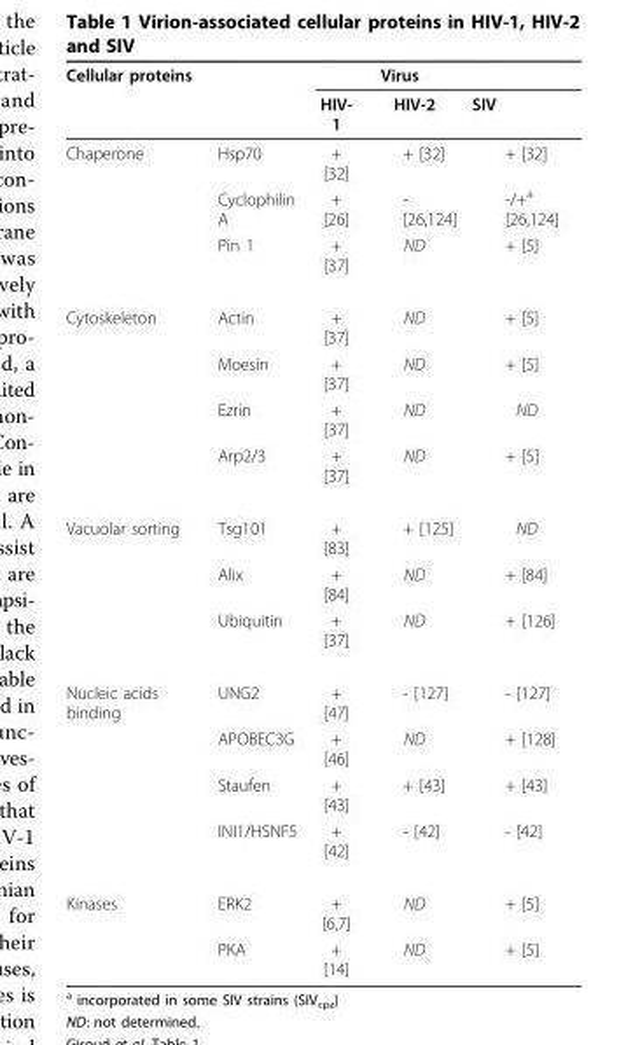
<table><thead><tr><td rowspan="2">Cellular proteins</td><td colspan="4">Virus</td></tr><tr><td></td><td>HIV- 1</td><td>HIV-2</td><td>SIV</td></tr></thead><tbody><tr><td rowspan="3">Chaperone</td><td>Hsp70</td><td>+ [32]</td><td>+ [32]</td><td>+ [32]</td></tr><tr><td>Cyclophilin A</td><td>+ [26]</td><td>- [26,124]</td><td>-/+<sup>a</sup> [26,124]</td></tr><tr><td>Pin 1</td><td>+ [37]</td><td>ND</td><td>+ [5]</td></tr><tr><td rowspan="4">Cytoskeleton</td><td>Actin</td><td>+ [37]</td><td>ND</td><td>+ [5]</td></tr><tr><td>Moesin</td><td>+ [37]</td><td>ND</td><td>+ [5]</td></tr><tr><td>Ezrin</td><td>+ [37]</td><td>ND</td><td>ND</td></tr><tr><td>Arp2/3</td><td>+ [37]</td><td>ND</td><td>+ [5]</td></tr><tr><td rowspan="3">Vacuolar sorting</td><td>Tsg101</td><td>+ [83]</td><td>+ [125]</td><td>ND</td></tr><tr><td>Alix</td><td>+ [84]</td><td>ND</td><td>+ [84]</td></tr><tr><td>Ubiquitin</td><td>+ [37]</td><td>ND</td><td>+ [126]</td></tr><tr><td rowspan="4">Nucleic acids binding</td><td>UNG2</td><td>+ [47]</td><td>- [127]</td><td>- [127]</td></tr><tr><td>APOBEC3G</td><td>+ [46]</td><td>ND</td><td>+ [128]</td></tr><tr><td>Staufen</td><td>+ [43]</td><td>+ [43]</td><td>+ [43]</td></tr><tr><td>INI1/HSNF5</td><td>+ [42]</td><td>- [42]</td><td>- [42]</td></tr><tr><td rowspan="2">Kinases</td><td>ERK2</td><td>+ [6,7]</td><td>ND</td><td>+ [5]</td></tr><tr><td>PKA</td><td>+ [14]</td><td>ND</td><td>+ [5]</td></tr></tbody></table>